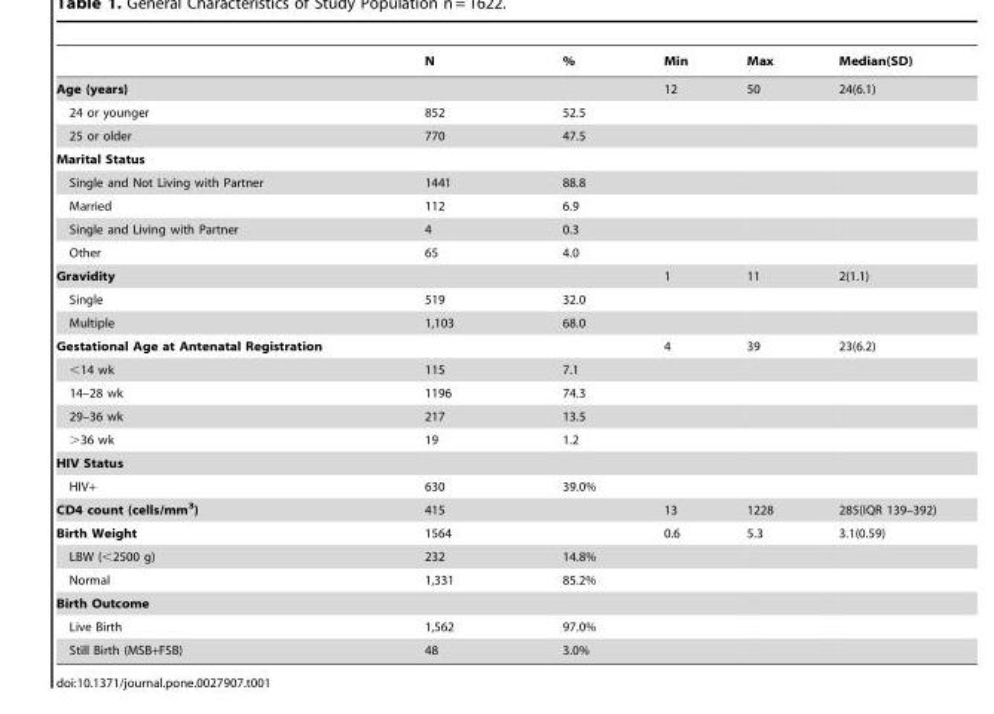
<table><thead><tr><td></td><td>N</td><td>%</td><td>Min</td><td>Max</td><td>Median(SD)</td></tr></thead><tbody><tr><td>Age (years)</td><td></td><td></td><td>12</td><td>50</td><td>24(6.1)</td></tr><tr><td>24 or younger</td><td>852</td><td>52.5</td><td></td><td></td><td></td></tr><tr><td>25 or older</td><td>770</td><td>47.5</td><td></td><td></td><td></td></tr><tr><td colspan="6">Marital Status</td></tr><tr><td>Single and Not Living with Partner</td><td>1441</td><td>88.8</td><td></td><td></td><td></td></tr><tr><td>Married</td><td>112</td><td>6.9</td><td></td><td></td><td></td></tr><tr><td>Single and Living with Partner</td><td>4</td><td>0.3</td><td></td><td></td><td></td></tr><tr><td>Other</td><td>65</td><td>4.0</td><td></td><td></td><td></td></tr><tr><td>Gravidity</td><td></td><td></td><td>1</td><td>11</td><td>2(1.1)</td></tr><tr><td>Single</td><td>519</td><td>32.0</td><td></td><td></td><td></td></tr><tr><td>Multiple</td><td>1,103</td><td>68.0</td><td></td><td></td><td></td></tr><tr><td>Gestational Age at Antenatal Registration</td><td></td><td></td><td>4</td><td>39</td><td>23(6.2)</td></tr><tr><td>&lt;14 wk</td><td>115</td><td>7.1</td><td></td><td></td><td></td></tr><tr><td>14–28 wk</td><td>1196</td><td>74.3</td><td></td><td></td><td></td></tr><tr><td>29–36 wk</td><td>217</td><td>13.5</td><td></td><td></td><td></td></tr><tr><td>&gt;36 wk</td><td>19</td><td>1.2</td><td></td><td></td><td></td></tr><tr><td colspan="6">HIV Status</td></tr><tr><td>HIV+</td><td>630</td><td>39.0%</td><td></td><td></td><td></td></tr><tr><td>CD4 count (cells/mm<sup>3</sup>)</td><td>415</td><td></td><td>13</td><td>1228</td><td>285(IQR 139–392)</td></tr><tr><td>Birth Weight</td><td>1564</td><td></td><td>0.6</td><td>5.3</td><td>3.1(0.59)</td></tr><tr><td>LBW (&lt;2500 g)</td><td>232</td><td>14.8%</td><td></td><td></td><td></td></tr><tr><td>Normal</td><td>1,331</td><td>85.2%</td><td></td><td></td><td></td></tr><tr><td colspan="6">Birth Outcome</td></tr><tr><td>Live Birth</td><td>1,562</td><td>97.0%</td><td></td><td></td><td></td></tr><tr><td>Still Birth (MSB+FSB)</td><td>48</td><td>3.0%</td><td></td><td></td><td></td></tr></tbody></table>